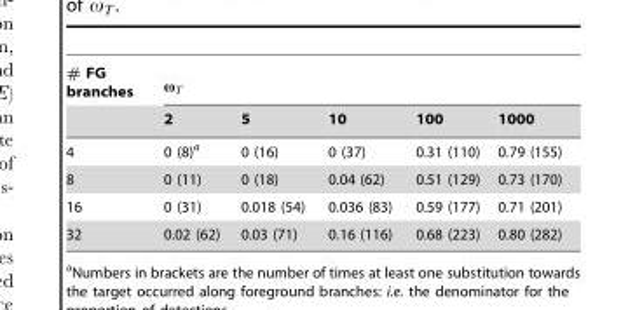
<table><thead><tr><td rowspan="2"># FG branches</td><td rowspan="2">vT 2</td><td rowspan="2">5</td><td rowspan="2">10</td><td rowspan="2">100</td><td rowspan="2">1000</td></tr><tr></tr></thead><tbody><tr><td>4</td><td>0 (8)<sup>a</sup></td><td>0 (16)</td><td>0 (37)</td><td>0.31 (110)</td><td>0.79 (155)</td></tr><tr><td>8</td><td>0 (11)</td><td>0 (18)</td><td>0.04 (62)</td><td>0.51 (129)</td><td>0.73 (170)</td></tr><tr><td>16</td><td>0 (31)</td><td>0.018 (54)</td><td>0.036 (83)</td><td>0.59 (177)</td><td>0.71 (201)</td></tr><tr><td>32</td><td>0.02 (62)</td><td>0.03 (71)</td><td>0.16 (116)</td><td>0.68 (223)</td><td>0.80 (282)</td></tr></tbody></table>